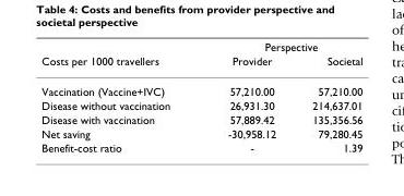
<table><thead><tr><td rowspan="2">Costs per 1000 travellers</td><td colspan="2">Perspective</td></tr><tr><td>Provider</td><td>Societal</td></tr></thead><tbody><tr><td>Vaccination (Vaccine+IVC)</td><td>57,210.00</td><td>57,210.00</td></tr><tr><td>Disease without vaccination</td><td>26,931.30</td><td>214,637.01</td></tr><tr><td>Disease with vaccination</td><td>57,889.42</td><td>135,356.56</td></tr><tr><td>Net saving</td><td>-30,958.12</td><td>79,280.45</td></tr><tr><td>Benefit-cost ratio</td><td>-</td><td>1.39</td></tr></tbody></table>